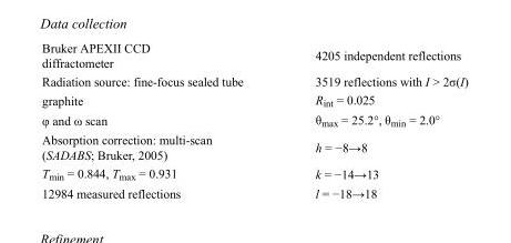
<table><tbody><tr><td>Bruker APEXII CCD diffractometer</td><td>4205 independent reflections</td></tr><tr><td>Radiation source: fine-focus sealed tube</td><td>3519 reflections with I &gt; 2σ(I)</td></tr><tr><td>graphite</td><td>R<sub>int</sub> = 0.025</td></tr><tr><td>φ and ω scan</td><td>θ<sub>max</sub> = 25.2°, θ<sub>min</sub> = 2.0°</td></tr><tr><td>Absorption correction: multi-scan (SADABS; Bruker, 2005)</td><td>h = −8→8</td></tr><tr><td>T<sub>min</sub> = 0.844, T<sub>max</sub> = 0.931</td><td>k = −14→13</td></tr><tr><td>12984 measured reflections</td><td>l = −18→18</td></tr></tbody></table>